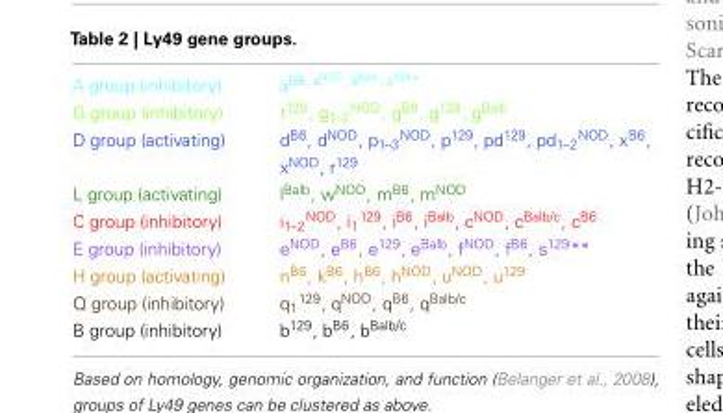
<table><tbody><tr><td>A group (inhibitory)</td><td>a<sup>B6, a</sup>NOD<sup>, a</sup>Balb<sup>, o</sup>129*</td></tr><tr><td>G group (inhibitory)</td><td>t<sup>129</sup>, g<sub>1–2</sub><sup>NOD</sup>, g<sup>B6</sup>, g<sup>129</sup>, g<sup>Balb</sup></td></tr><tr><td>D group (activating)</td><td>d<sup>B6</sup>, d<sup>NOD</sup>, p<sub>1–3</sub><sup>NOD</sup>, p<sup>129</sup>, pd<sup>129</sup>, pd<sub>1–2</sub><sup>NOD</sup>, x<sup>B6</sup>, x<sup>NOD</sup>, r<sup>129</sup></td></tr><tr><td>L group (activating)</td><td>l<sup>Balb</sup>, w<sup>NOD</sup>, m<sup>B6</sup>, m<sup>NOD</sup></td></tr><tr><td>C group (inhibitory)</td><td>i<sub>1–2</sub><sup>NOD</sup>, i<sub>1</sub><sup>129</sup>, i<sup>B6</sup>, i<sup>Balb</sup>, c<sup>NOD</sup>, c<sup>Balb/c</sup>, c<sup>B6</sup></td></tr><tr><td>E group (inhibitory)</td><td>e<sup>NOD</sup>, e<sup>B6</sup>, e<sup>129</sup>, e<sup>Balb</sup>, f<sup>NOD</sup>, f<sup>B6</sup>, s<sup>129</sup>**</td></tr><tr><td>H group (activating)</td><td>n<sup>B6</sup>, k<sup>B6</sup>, h<sup>B6</sup>, h<sup>NOD</sup>, u<sup>NOD</sup>, u<sup>129</sup></td></tr><tr><td>Q group (inhibitory)</td><td>q<sub>1</sub><sup>129</sup>, q<sup>NOD</sup>, q<sup>B6</sup>, q<sup>Balb/c</sup></td></tr><tr><td>B group (inhibitory)</td><td>b<sup>129</sup>, b<sup>B6</sup>, b<sup>Balb/c</sup></td></tr></tbody></table>